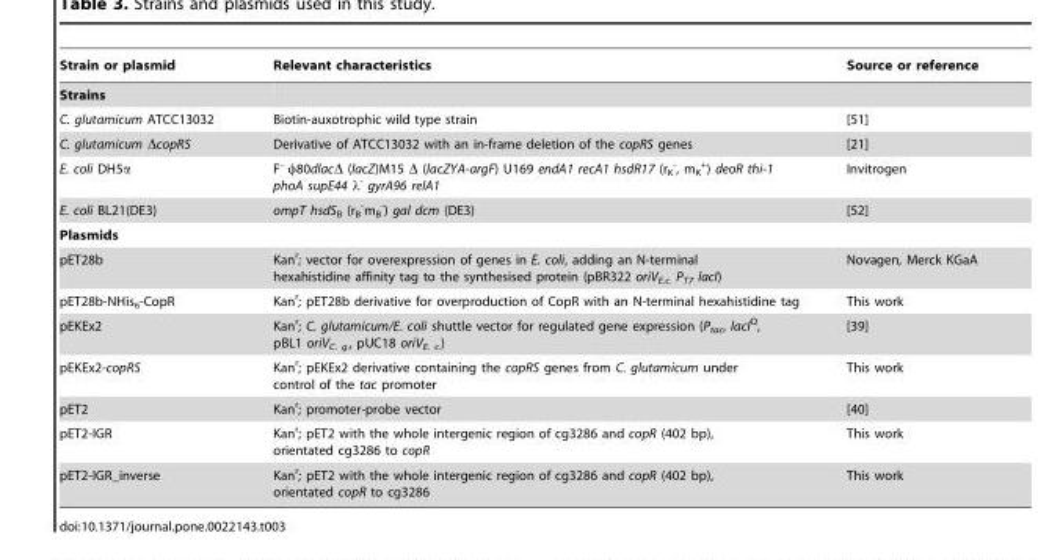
<table><thead><tr><td>Strain or plasmid</td><td>Relevant characteristics</td><td>Source or reference</td></tr></thead><tbody><tr><td colspan="3">Strains</td></tr><tr><td>C. glutamicum ATCC13032</td><td>Biotin-auxotrophic wild type strain</td><td>[51]</td></tr><tr><td>C. glutamicum ΔcopRS</td><td>Derivative of ATCC13032 with an in-frame deletion of the copRS genes</td><td>[21]</td></tr><tr><td>E. coli DH5α</td><td>F<sup>-</sup> φ80dlacΔ (lacZ)M15 Δ (lacZYA-argF) U169 endA1 recA1 hsdR17 (r<sub>K</sub> <sup>-</sup>, m<sub>K</sub> <sup>+</sup>) deoR thi-1 phoA supE44 λ<sup>-</sup> gyrA96 relA1</td><td>Invitrogen</td></tr><tr><td>E. coli BL21(DE3)</td><td>ompT hsdS<sub>B</sub> (r<sub>B</sub> <sup>-</sup>m<sub>B</sub> <sup>-</sup>) gal dcm (DE3)</td><td>[52]</td></tr><tr><td colspan="3">Plasmids</td></tr><tr><td>pET28b</td><td>Kan<sup>r</sup>; vector for overexpression of genes in E. coli, adding an N-terminal hexahistidine affinity tag to the synthesised protein (pBR322 oriV<sub>E.c.</sub> P<sub>T7</sub> lacI)</td><td>Novagen, Merck KGaA</td></tr><tr><td>pET28b-NHis<sub>6</sub>-CopR</td><td>Kan<sup>r</sup>; pET28b derivative for overproduction of CopR with an N-terminal hexahistidine tag</td><td>This work</td></tr><tr><td>pEKEx2</td><td>Kan<sup>r</sup>; C. glutamicum/E. coli shuttle vector for regulated gene expression (P<sub>tac</sub>, lacI<sup>Q</sup>, pBL1 oriV<sub>C. g.</sub>, pUC18 oriV<sub>E. c.</sub>)</td><td>[39]</td></tr><tr><td>pEKEx2-copRS</td><td>Kan<sup>r</sup>; pEKEx2 derivative containing the copRS genes from C. glutamicum under control of the tac promoter</td><td>This work</td></tr><tr><td>pET2</td><td>Kan<sup>r</sup>; promoter-probe vector</td><td>[40]</td></tr><tr><td>pET2-IGR</td><td>Kan<sup>r</sup>; pET2 with the whole intergenic region of cg3286 and copR (402 bp), orientated cg3286 to copR</td><td>This work</td></tr><tr><td>pET2-IGR_inverse</td><td>Kan<sup>r</sup>; pET2 with the whole intergenic region of cg3286 and copR (402 bp), orientated copR to cg3286</td><td>This work</td></tr></tbody></table>